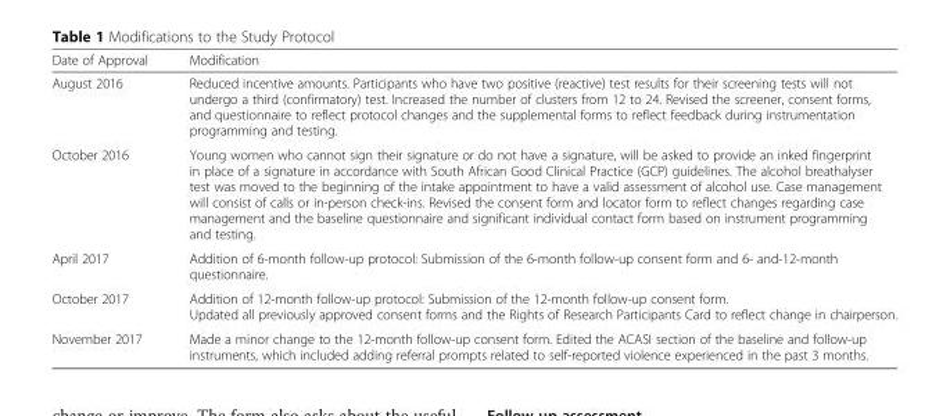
<table><thead><tr><td>Date of Approval</td><td>Modification</td></tr></thead><tbody><tr><td>August 2016</td><td>Reduced incentive amounts. Participants who have two positive (reactive) test results for their screening tests will not undergo a third (confirmatory) test. Increased the number of clusters from 12 to 24. Revised the screener, consent forms, and questionnaire to reflect protocol changes and the supplemental forms to reflect feedback during instrumentation programming and testing.</td></tr><tr><td>October 2016</td><td>Young women who cannot sign their signature or do not have a signature, will be asked to provide an inked fingerprint in place of a signature in accordance with South African Good Clinical Practice (GCP) guidelines. The alcohol breathalyser test was moved to the beginning of the intake appointment to have a valid assessment of alcohol use. Case management will consist of calls or in-person check-ins. Revised the consent form and locator form to reflect changes regarding case management and the baseline questionnaire and significant individual contact form based on instrument programming and testing.</td></tr><tr><td>April 2017</td><td>Addition of 6-month follow-up protocol: Submission of the 6-month follow-up consent form and 6- and-12-month questionnaire.</td></tr><tr><td>October 2017</td><td>Addition of 12-month follow-up protocol: Submission of the 12-month follow-up consent form. Updated all previously approved consent forms and the Rights of Research Participants Card to reflect change in chairperson.</td></tr><tr><td>November 2017</td><td>Made a minor change to the 12-month follow-up consent form. Edited the ACASI section of the baseline and follow-up instruments, which included adding referral prompts related to self-reported violence experienced in the past 3 months.</td></tr></tbody></table>